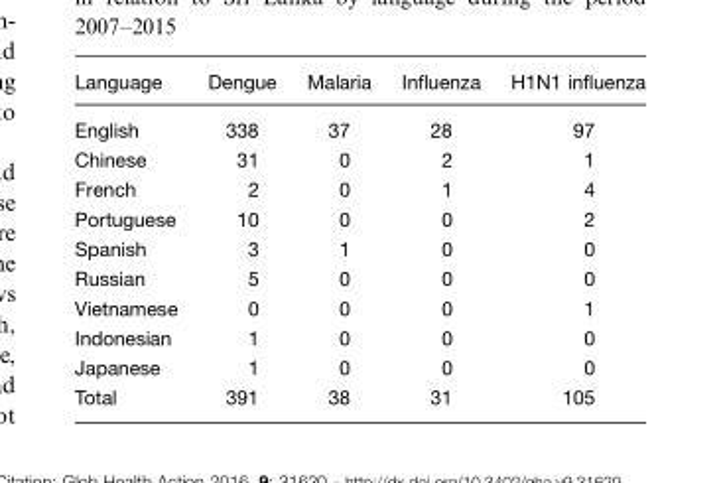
<table><thead><tr><td>Language</td><td>Dengue</td><td>Malaria</td><td>Influenza</td><td>H1N1 influenza</td></tr></thead><tbody><tr><td>English</td><td>338</td><td>37</td><td>28</td><td>97</td></tr><tr><td>Chinese</td><td>31</td><td>0</td><td>2</td><td>1</td></tr><tr><td>French</td><td>2</td><td>0</td><td>1</td><td>4</td></tr><tr><td>Portuguese</td><td>10</td><td>0</td><td>0</td><td>2</td></tr><tr><td>Spanish</td><td>3</td><td>1</td><td>0</td><td>0</td></tr><tr><td>Russian</td><td>5</td><td>0</td><td>0</td><td>0</td></tr><tr><td>Vietnamese</td><td>0</td><td>0</td><td>0</td><td>1</td></tr><tr><td>Indonesian</td><td>1</td><td>0</td><td>0</td><td>0</td></tr><tr><td>Japanese</td><td>1</td><td>0</td><td>0</td><td>0</td></tr><tr><td>Total</td><td>391</td><td>38</td><td>31</td><td>105</td></tr></tbody></table>